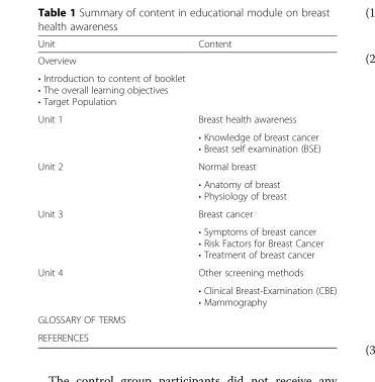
<table><thead><tr><td>Unit</td><td>Content</td></tr></thead><tbody><tr><td colspan="2">Overview</td></tr><tr><td colspan="2">• Introduction to content of booklet • The overall learning objectives • Target Population</td></tr><tr><td rowspan="2">Unit 1</td><td>Breast health awareness</td></tr><tr><td>• Knowledge of breast cancer • Breast self examination (BSE)</td></tr><tr><td rowspan="2">Unit 2</td><td>Normal breast</td></tr><tr><td>• Anatomy of breast • Physiology of breast</td></tr><tr><td rowspan="2">Unit 3</td><td>Breast cancer</td></tr><tr><td>• Symptoms of breast cancer • Risk Factors for Breast Cancer • Treatment of breast cancer</td></tr><tr><td rowspan="2">Unit 4</td><td>Other screening methods</td></tr><tr><td>• Clinical Breast-Examination (CBE) • Mammography</td></tr><tr><td colspan="2">GLOSSARY OF TERMS</td></tr><tr><td colspan="2">REFERENCES</td></tr></tbody></table>